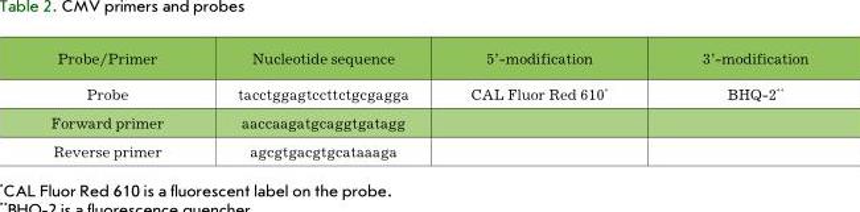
<table><thead><tr><td>Probe/Primer</td><td>Nucleotide sequence</td><td>5’-modification</td><td>3’-modification</td></tr></thead><tbody><tr><td>Probe</td><td>tacctggagtccttctgcgagga</td><td>CAL Fluor Red 610*</td><td>BHQ-2**</td></tr><tr><td>Forward primer</td><td>aaccaagatgcaggtgatagg</td><td></td><td></td></tr><tr><td>Reverse primer</td><td>agcgtgacgtgcataaaga</td><td></td><td></td></tr></tbody></table>